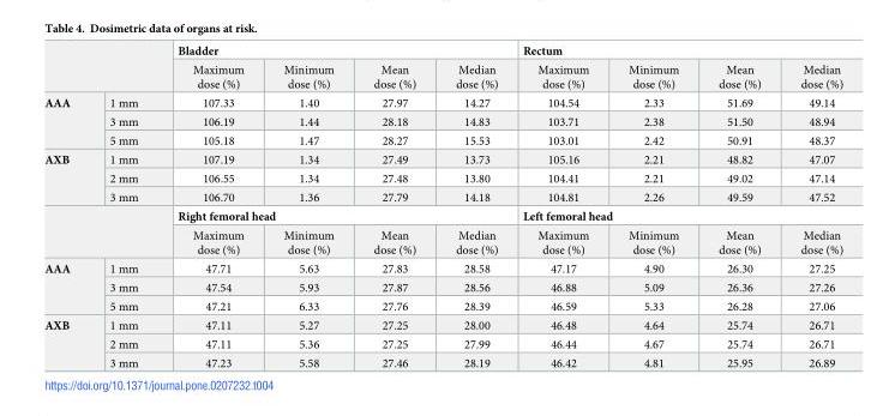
<table><thead><tr><td rowspan="2"></td><td rowspan="2"></td><td colspan="4">Bladder</td><td colspan="4">Rectum</td></tr><tr><td>Maximum dose (%)</td><td>Minimum dose (%)</td><td>Mean dose (%)</td><td>Median dose (%)</td><td>Maximum dose (%)</td><td>Minimum dose (%)</td><td>Mean dose (%)</td><td>Median dose (%)</td></tr></thead><tbody><tr><td rowspan="3">AAA</td><td>1 mm</td><td>107.33</td><td>1.40</td><td>27.97</td><td>14.27</td><td>104.54</td><td>2.33</td><td>51.69</td><td>49.14</td></tr><tr><td>3 mm</td><td>106.19</td><td>1.44</td><td>28.18</td><td>14.83</td><td>103.71</td><td>2.38</td><td>51.50</td><td>48.94</td></tr><tr><td>5 mm</td><td>105.18</td><td>1.47</td><td>28.27</td><td>15.53</td><td>103.01</td><td>2.42</td><td>50.91</td><td>48.37</td></tr><tr><td rowspan="3">AXB</td><td>1 mm</td><td>107.19</td><td>1.34</td><td>27.49</td><td>13.73</td><td>105.16</td><td>2.21</td><td>48.82</td><td>47.07</td></tr><tr><td>2 mm</td><td>106.55</td><td>1.34</td><td>27.48</td><td>13.80</td><td>104.41</td><td>2.21</td><td>49.02</td><td>47.14</td></tr><tr><td>3 mm</td><td>106.70</td><td>1.36</td><td>27.79</td><td>14.18</td><td>104.81</td><td>2.26</td><td>49.59</td><td>47.52</td></tr><tr><td rowspan="2" colspan="2"></td><td colspan="4">Right femoral head</td><td colspan="4">Left femoral head</td></tr><tr><td>Maximum dose (%)</td><td>Minimum dose (%)</td><td>Mean dose (%)</td><td>Median dose (%)</td><td>Maximum dose (%)</td><td>Minimum dose (%)</td><td>Mean dose (%)</td><td>Median dose (%)</td></tr><tr><td rowspan="3">AAA</td><td>1 mm</td><td>47.71</td><td>5.63</td><td>27.83</td><td>28.58</td><td>47.17</td><td>4.90</td><td>26.30</td><td>27.25</td></tr><tr><td>3 mm</td><td>47.54</td><td>5.93</td><td>27.87</td><td>28.56</td><td>46.88</td><td>5.09</td><td>26.36</td><td>27.26</td></tr><tr><td>5 mm</td><td>47.21</td><td>6.33</td><td>27.76</td><td>28.39</td><td>46.59</td><td>5.33</td><td>26.28</td><td>27.06</td></tr><tr><td rowspan="3">AXB</td><td>1 mm</td><td>47.11</td><td>5.27</td><td>27.25</td><td>28.00</td><td>46.48</td><td>4.64</td><td>25.74</td><td>26.71</td></tr><tr><td>2 mm</td><td>47.11</td><td>5.36</td><td>27.25</td><td>27.99</td><td>46.44</td><td>4.67</td><td>25.74</td><td>26.71</td></tr><tr><td>3 mm</td><td>47.23</td><td>5.58</td><td>27.46</td><td>28.19</td><td>46.42</td><td>4.81</td><td>25.95</td><td>26.89</td></tr></tbody></table>